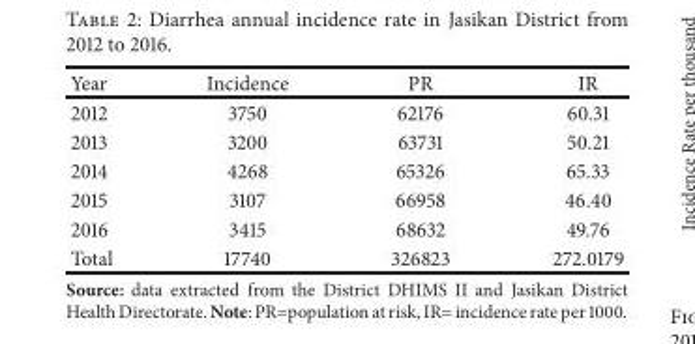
<table><thead><tr><td>Year</td><td>Incidence</td><td>PR</td><td>IR</td></tr></thead><tbody><tr><td>2012</td><td>3750</td><td>62176</td><td>60.31</td></tr><tr><td>2013</td><td>3200</td><td>63731</td><td>50.21</td></tr><tr><td>2014</td><td>4268</td><td>65326</td><td>65.33</td></tr><tr><td>2015</td><td>3107</td><td>66958</td><td>46.40</td></tr><tr><td>2016</td><td>3415</td><td>68632</td><td>49.76</td></tr><tr><td>Total</td><td>17740</td><td>326823</td><td>272.0179</td></tr></tbody></table>